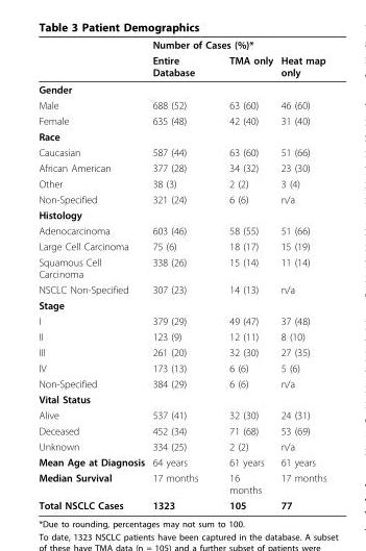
<table><thead><tr><td rowspan="2"></td><td colspan="3">Number of Cases (%)*</td></tr><tr><td>Entire Database</td><td>TMA only</td><td>Heat map only</td></tr></thead><tbody><tr><td colspan="4">Gender</td></tr><tr><td>Male</td><td>688 (52)</td><td>63 (60)</td><td>46 (60)</td></tr><tr><td>Female</td><td>635 (48)</td><td>42 (40)</td><td>31 (40)</td></tr><tr><td colspan="4">Race</td></tr><tr><td>Caucasian</td><td>587 (44)</td><td>63 (60)</td><td>51 (66)</td></tr><tr><td>African American</td><td>377 (28)</td><td>34 (32)</td><td>23 (30)</td></tr><tr><td>Other</td><td>38 (3)</td><td>2 (2)</td><td>3 (4)</td></tr><tr><td>Non-Specified</td><td>321 (24)</td><td>6 (6)</td><td>n/a</td></tr><tr><td colspan="4">Histology</td></tr><tr><td>Adenocarcinoma</td><td>603 (46)</td><td>58 (55)</td><td>51 (66)</td></tr><tr><td>Large Cell Carcinoma</td><td>75 (6)</td><td>18 (17)</td><td>15 (19)</td></tr><tr><td>Squamous Cell Carcinoma</td><td>338 (26)</td><td>15 (14)</td><td>11 (14)</td></tr><tr><td>NSCLC Non-Specified</td><td>307 (23)</td><td>14 (13)</td><td>n/a</td></tr><tr><td colspan="4">Stage</td></tr><tr><td>I</td><td>379 (29)</td><td>49 (47)</td><td>37 (48)</td></tr><tr><td>II</td><td>123 (9)</td><td>12 (11)</td><td>8 (10)</td></tr><tr><td>III</td><td>261 (20)</td><td>32 (30)</td><td>27 (35)</td></tr><tr><td>IV</td><td>173 (13)</td><td>6 (6)</td><td>5 (6)</td></tr><tr><td>Non-Specified</td><td>384 (29)</td><td>6 (6)</td><td>n/a</td></tr><tr><td colspan="4">Vital Status</td></tr><tr><td>Alive</td><td>537 (41)</td><td>32 (30)</td><td>24 (31)</td></tr><tr><td>Deceased</td><td>452 (34)</td><td>71 (68)</td><td>53 (69)</td></tr><tr><td>Unknown</td><td>334 (25)</td><td>2 (2)</td><td>n/a</td></tr><tr><td>Mean Age at Diagnosis</td><td>64 years</td><td>61 years</td><td>61 years</td></tr><tr><td>Median Survival</td><td>17 months</td><td>16 months</td><td>17 months</td></tr><tr><td>Total NSCLC Cases</td><td>1323</td><td>105</td><td>77</td></tr></tbody></table>